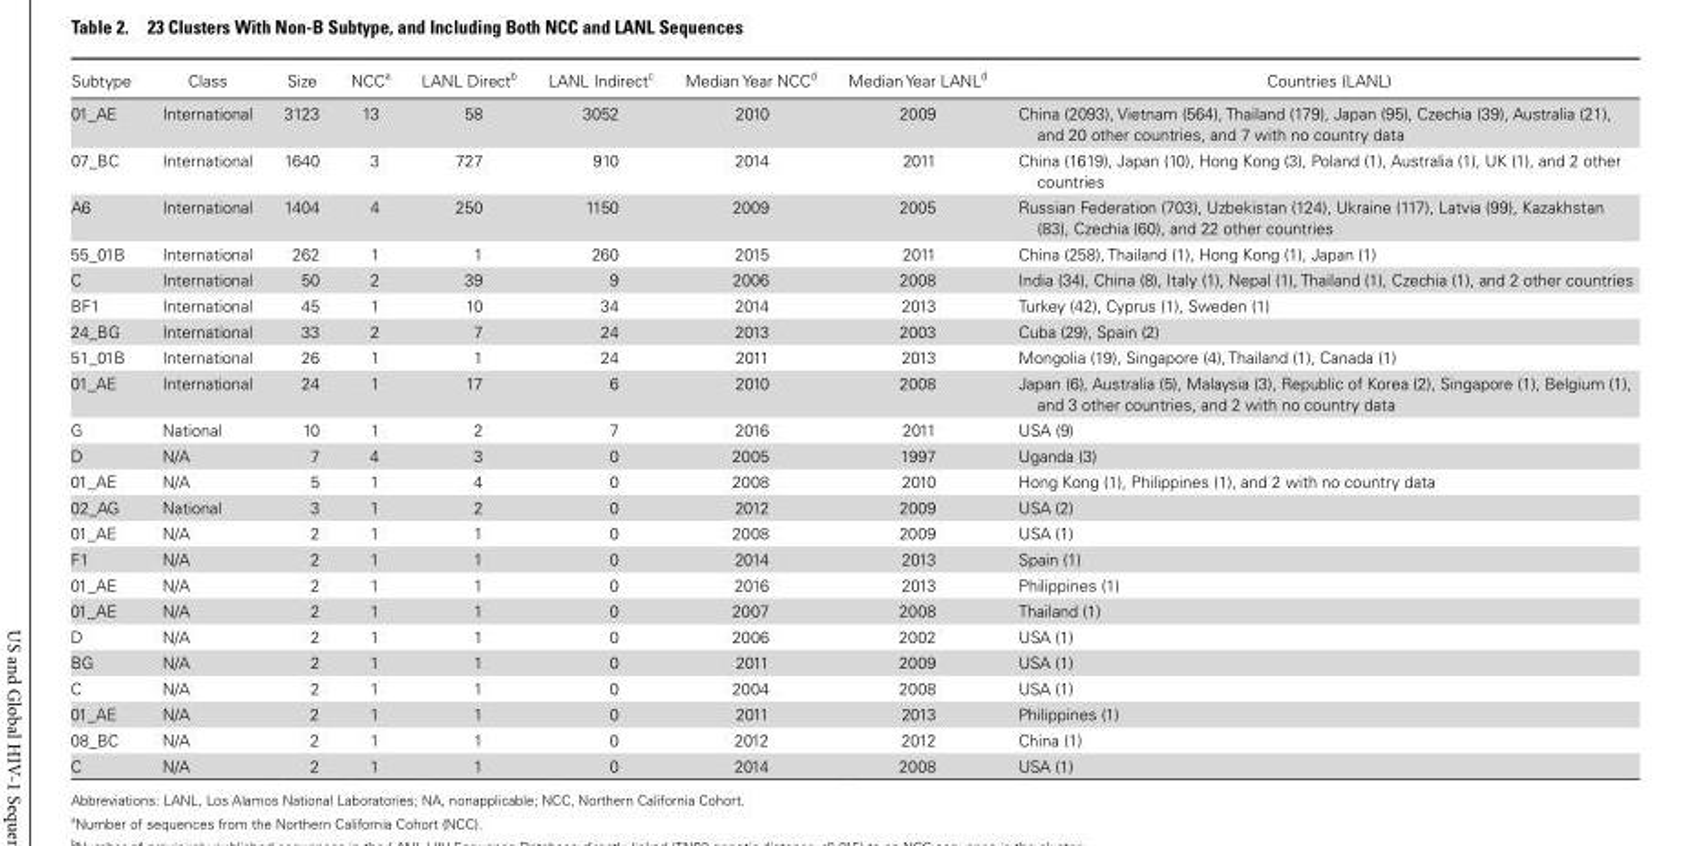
<table><thead><tr><td>Subtype</td><td>Class</td><td>Size</td><td>NCC<sup>a</sup></td><td>LANL Direct<sup>b</sup></td><td>LANL Indirect<sup>c</sup></td><td>Median Year NCC<sup>d</sup></td><td>Median Year LANL<sup>d</sup></td><td>Countries (LANL)</td></tr></thead><tbody><tr><td>01_AE</td><td>International</td><td>3123</td><td>13</td><td>58</td><td>3052</td><td>2010</td><td>2009</td><td>China (2093), Vietnam (564), Thailand (179), Japan (95), Czechia (39), Australia (21), and 20 other countries, and 7 with no country data</td></tr><tr><td>07_BC</td><td>International</td><td>1640</td><td>3</td><td>727</td><td>910</td><td>2014</td><td>2011</td><td>China (1619), Japan (10), Hong Kong (3), Poland (1), Australia (1), UK (1), and 2 other countries</td></tr><tr><td>A6</td><td>International</td><td>1404</td><td>4</td><td>250</td><td>1150</td><td>2009</td><td>2005</td><td>Russian Federation (703), Uzbekistan (124), Ukraine (117), Latvia (99), Kazakhstan (83), Czechia (60), and 22 other countries</td></tr><tr><td>55_01B</td><td>International</td><td>262</td><td>1</td><td>1</td><td>260</td><td>2015</td><td>2011</td><td>China (258), Thailand (1), Hong Kong (1), Japan (1)</td></tr><tr><td>C</td><td>International</td><td>50</td><td>2</td><td>39</td><td>9</td><td>2006</td><td>2008</td><td>India (34), China (8), Italy (1), Nepal (1), Thailand (1), Czechia (1), and 2 other countries</td></tr><tr><td>BF1</td><td>International</td><td>45</td><td>1</td><td>10</td><td>34</td><td>2014</td><td>2013</td><td>Turkey (42), Cyprus (1), Sweden (1)</td></tr><tr><td>24_BG</td><td>International</td><td>33</td><td>2</td><td>7</td><td>24</td><td>2013</td><td>2003</td><td>Cuba (29), Spain (2)</td></tr><tr><td>51_01B</td><td>International</td><td>26</td><td>1</td><td>1</td><td>24</td><td>2011</td><td>2013</td><td>Mongolia (19), Singapore (4), Thailand (1), Canada (1)</td></tr><tr><td>01_AE</td><td>International</td><td>24</td><td>1</td><td>17</td><td>6</td><td>2010</td><td>2008</td><td>Japan (6), Australia (5), Malaysia (3), Republic of Korea (2), Singapore (1), Belgium (1), and 3 other countries, and 2 with no country data</td></tr><tr><td>G</td><td>National</td><td>10</td><td>1</td><td>2</td><td>7</td><td>2016</td><td>2011</td><td>USA (9)</td></tr><tr><td>D</td><td>N/A</td><td>7</td><td>4</td><td>3</td><td>0</td><td>2005</td><td>1997</td><td>Uganda (3)</td></tr><tr><td>01_AE</td><td>N/A</td><td>5</td><td>1</td><td>4</td><td>0</td><td>2008</td><td>2010</td><td>Hong Kong (1), Philippines (1), and 2 with no country data</td></tr><tr><td>02_AG</td><td>National</td><td>3</td><td>1</td><td>2</td><td>0</td><td>2012</td><td>2009</td><td>USA (2)</td></tr><tr><td>01_AE</td><td>N/A</td><td>2</td><td>1</td><td>1</td><td>0</td><td>2008</td><td>2009</td><td>USA (1)</td></tr><tr><td>F1</td><td>N/A</td><td>2</td><td>1</td><td>1</td><td>0</td><td>2014</td><td>2013</td><td>Spain (1)</td></tr><tr><td>01_AE</td><td>N/A</td><td>2</td><td>1</td><td>1</td><td>0</td><td>2016</td><td>2013</td><td>Philippines (1)</td></tr><tr><td>01_AE</td><td>N/A</td><td>2</td><td>1</td><td>1</td><td>0</td><td>2007</td><td>2008</td><td>Thailand (1)</td></tr><tr><td>D</td><td>N/A</td><td>2</td><td>1</td><td>1</td><td>0</td><td>2006</td><td>2002</td><td>USA (1)</td></tr><tr><td>BG</td><td>N/A</td><td>2</td><td>1</td><td>1</td><td>0</td><td>2011</td><td>2009</td><td>USA (1)</td></tr><tr><td>C</td><td>N/A</td><td>2</td><td>1</td><td>1</td><td>0</td><td>2004</td><td>2008</td><td>USA (1)</td></tr><tr><td>01_AE</td><td>N/A</td><td>2</td><td>1</td><td>1</td><td>0</td><td>2011</td><td>2013</td><td>Philippines (1)</td></tr><tr><td>08_BC</td><td>N/A</td><td>2</td><td>1</td><td>1</td><td>0</td><td>2012</td><td>2012</td><td>China (1)</td></tr><tr><td>C</td><td>N/A</td><td>2</td><td>1</td><td>1</td><td>0</td><td>2014</td><td>2008</td><td>USA (1)</td></tr></tbody></table>